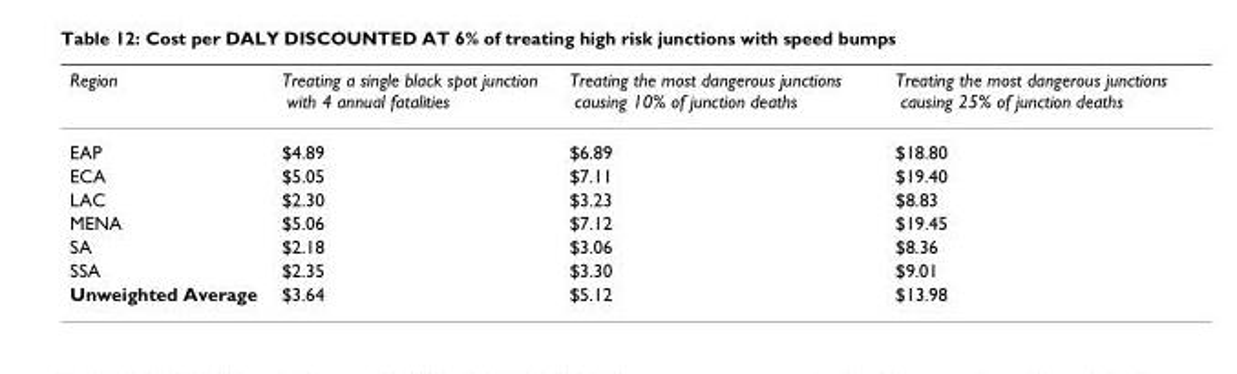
<table><thead><tr><td>Region</td><td>Treating a single black spot junction with 4 annual fatalities</td><td>Treating the most dangerous junctions causing 10% of junction deaths</td><td>Treating the most dangerous junctions causing 25% of junction deaths</td></tr></thead><tbody><tr><td>EAP</td><td>$4.89</td><td>$6.89</td><td>$18.80</td></tr><tr><td>ECA</td><td>$5.05</td><td>$7.11</td><td>$19.40</td></tr><tr><td>LAC</td><td>$2.30</td><td>$3.23</td><td>$8.83</td></tr><tr><td>MENA</td><td>$5.06</td><td>$7.12</td><td>$19.45</td></tr><tr><td>SA</td><td>$2.18</td><td>$3.06</td><td>$8.36</td></tr><tr><td>SSA</td><td>$2.35</td><td>$3.30</td><td>$9.01</td></tr><tr><td>Unweighted Average</td><td>$3.64</td><td>$5.12</td><td>$13.98</td></tr></tbody></table>